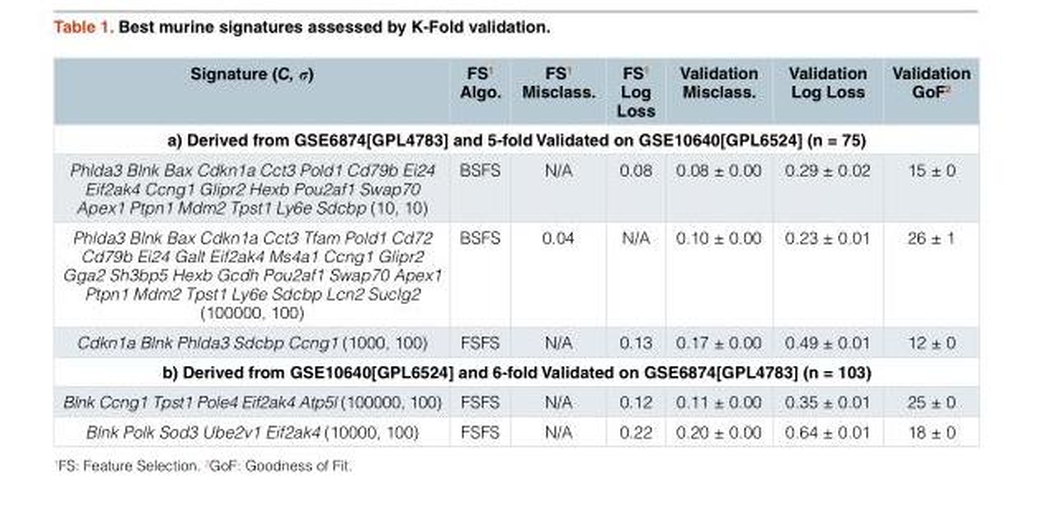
<table><thead><tr><td>Signature (C, σ)</td><td>FS<sup>1</sup> Algo.</td><td>FS<sup>1</sup> Misclass.</td><td>FS<sup>1</sup> Log Loss</td><td>Validation Misclass.</td><td>Validation Log Loss</td><td>Validation GoF<sup>2</sup></td></tr></thead><tbody><tr><td colspan="7">a) Derived from GSE6874[GPL4783] and 5-fold Validated on GSE10640[GPL6524] (n = 75)</td></tr><tr><td>Phlda3 Blnk Bax Cdkn1a Cct3 Pold1 Cd79b Ei24 Eif2ak4 Ccng1 Glipr2 Hexb Pou2af1 Swap70 Apex1 Ptpn1 Mdm2 Tpst1 Ly6e Sdcbp (10, 10)</td><td>BSFS</td><td>N/A</td><td>0.08</td><td>0.08 ± 0.00</td><td>0.29 ± 0.02</td><td>15 ± 0</td></tr><tr><td>Phlda3 Blnk Bax Cdkn1a Cct3 Tfam Pold1 Cd72 Cd79b Ei24 Galt Eif2ak4 Ms4a1 Ccng1 Glipr2 Gga2 Sh3bp5 Hexb Gcdh Pou2af1 Swap70 Apex1 Ptpn1 Mdm2 Tpst1 Ly6e Sdcbp Lcn2 Suclg2 (100000, 100)</td><td>BSFS</td><td>0.04</td><td>N/A</td><td>0.10 ± 0.00</td><td>0.23 ± 0.01</td><td>26 ± 1</td></tr><tr><td>Cdkn1a Blnk Phlda3 Sdcbp Ccng1 (1000, 100)</td><td>FSFS</td><td>N/A</td><td>0.13</td><td>0.17 ± 0.00</td><td>0.49 ± 0.01</td><td>12 ± 0</td></tr><tr><td colspan="7">b) Derived from GSE10640[GPL6524] and 6-fold Validated on GSE6874[GPL4783] (n = 103)</td></tr><tr><td>Blnk Ccng1 Tpst1 Pole4 Eif2ak4 Atp5l (100000, 100)</td><td>FSFS</td><td>N/A</td><td>0.12</td><td>0.11 ± 0.00</td><td>0.35 ± 0.01</td><td>25 ± 0</td></tr><tr><td>Blnk Polk Sod3 Ube2v1 Eif2ak4 (10000, 100)</td><td>FSFS</td><td>N/A</td><td>0.22</td><td>0.20 ± 0.00</td><td>0.64 ± 0.01</td><td>18 ± 0</td></tr></tbody></table>